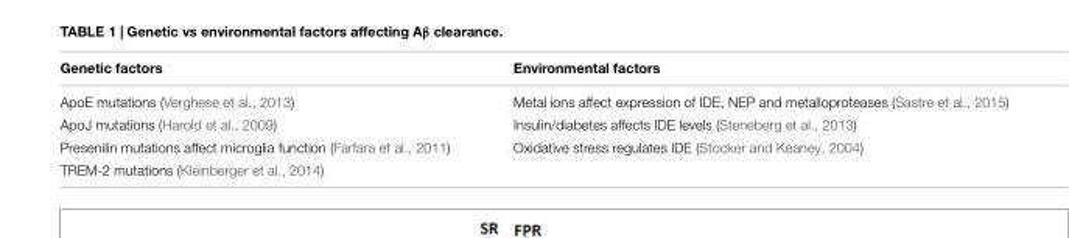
<table><thead><tr><td>Genetic factors</td><td>Environmental factors</td></tr></thead><tbody><tr><td>ApoE mutations (Verghese et al., 2013)</td><td>Metal ions affect expression of IDE, NEP and metalloproteases (Sastre et al., 2015)</td></tr><tr><td>ApoJ mutations (Harold et al., 2009)</td><td>Insulin/diabetes affects IDE levels (Steneberg et al., 2013)</td></tr><tr><td>Presenilin mutations affect microglia function (Farfara et al., 2011)</td><td>Oxidative stress regulates IDE (Stocker and Keaney, 2004)</td></tr><tr><td>TREM-2 mutations (Kleinberger et al., 2014)</td><td></td></tr></tbody></table>